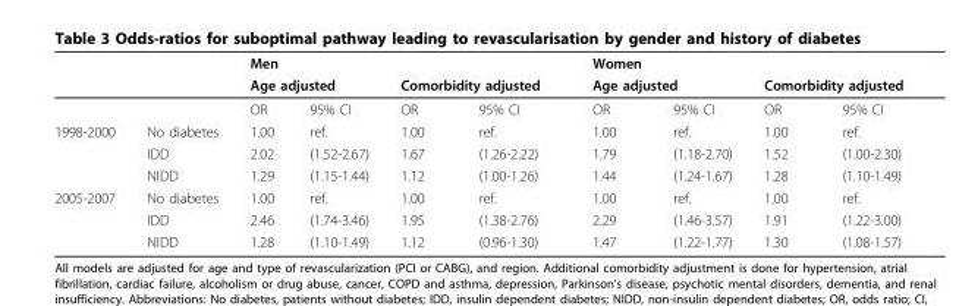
<table><thead><tr><td rowspan="2"></td><td rowspan="2"></td><td>Men</td><td></td><td></td><td></td><td>Women</td><td></td><td></td><td></td></tr><tr><td colspan="2">Age adjusted</td><td colspan="2">Comorbidity adjusted</td><td colspan="2">Age adjusted</td><td colspan="2">Comorbidity adjusted</td></tr></thead><tbody><tr><td></td><td></td><td>OR</td><td>95% CI</td><td>OR</td><td>95% CI</td><td>OR</td><td>95% CI</td><td>OR</td><td>95% CI</td></tr><tr><td rowspan="3">1998-2000</td><td>No diabetes</td><td>1.00</td><td>ref.</td><td>1.00</td><td>ref.</td><td>1.00</td><td>ref.</td><td>1.00</td><td>ref.</td></tr><tr><td>IDD</td><td>2.02</td><td>(1.52-2.67)</td><td>1.67</td><td>(1.26-2.22)</td><td>1.79</td><td>(1.18-2.70)</td><td>1.52</td><td>(1.00-2.30)</td></tr><tr><td>NIDD</td><td>1.29</td><td>(1.15-1.44)</td><td>1.12</td><td>(1.00-1.26)</td><td>1.44</td><td>(1.24-1.67)</td><td>1.28</td><td>(1.10-1.49)</td></tr><tr><td rowspan="3">2005-2007</td><td>No diabetes</td><td>1.00</td><td>ref.</td><td>1.00</td><td>ref.</td><td>1.00</td><td>ref.</td><td>1.00</td><td>ref.</td></tr><tr><td>IDD</td><td>2.46</td><td>(1.74-3.46)</td><td>1.95</td><td>(1.38-2.76)</td><td>2.29</td><td>(1.46-3.57)</td><td>1.91</td><td>(1.22-3.00)</td></tr><tr><td>NIDD</td><td>1.28</td><td>(1.10-1.49)</td><td>1.12</td><td>(0.96-1.30)</td><td>1.47</td><td>(1.22-1.77)</td><td>1.30</td><td>(1.08-1.57)</td></tr></tbody></table>